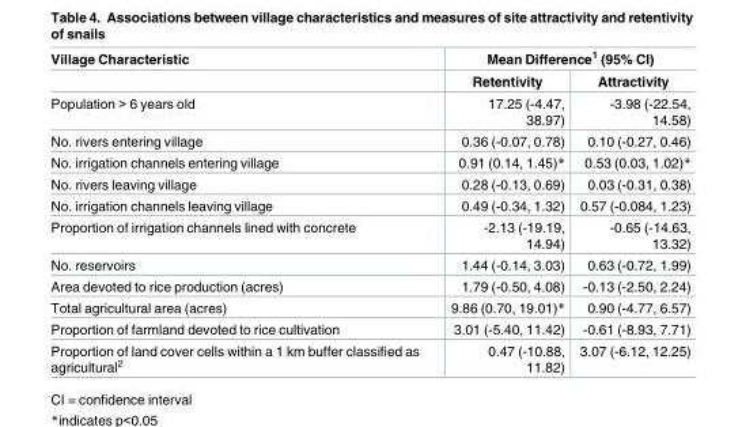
<table><thead><tr><td rowspan="2">Village Characteristic</td><td colspan="2">Mean Difference<sup>1</sup> (95% CI)</td></tr><tr><td>Retentivity</td><td>Attractivity</td></tr></thead><tbody><tr><td>Population &gt; 6 years old</td><td>17.25 (-4.47, 38.97)</td><td>-3.98 (-22.54, 14.58)</td></tr><tr><td>No. rivers entering village</td><td>0.36 (-0.07, 0.78)</td><td>0.10 (-0.27, 0.46)</td></tr><tr><td>No. irrigation channels entering village</td><td>0.91 (0.14, 1.45)*</td><td>0.53 (0.03, 1.02)*</td></tr><tr><td>No. rivers leaving village</td><td>0.28 (-0.13, 0.69)</td><td>0.03 (-0.31, 0.38)</td></tr><tr><td>No. irrigation channels leaving village</td><td>0.49 (-0.34, 1.32)</td><td>0.57 (-0.084, 1.23)</td></tr><tr><td>Proportion of irrigation channels lined with concrete</td><td>-2.13 (-19.19, 14.94)</td><td>-0.65 (-14.63, 13.32)</td></tr><tr><td>No. reservoirs</td><td>1.44 (-0.14, 3.03)</td><td>0.63 (-0.72, 1.99)</td></tr><tr><td>Area devoted to rice production (acres)</td><td>1.79 (-0.50, 4.08)</td><td>-0.13 (-2.50, 2.24)</td></tr><tr><td>Total agricultural area (acres)</td><td>9.86 (0.70, 19.01)*</td><td>0.90 (-4.77, 6.57)</td></tr><tr><td>Proportion of farmland devoted to rice cultivation</td><td>3.01 (-5.40, 11.42)</td><td>-0.61 (-8.93, 7.71)</td></tr><tr><td>Proportion of land cover cells within a 1 km buffer classified as agricultural<sup>2</sup></td><td>0.47 (-10.88, 11.82)</td><td>3.07 (-6.12, 12.25)</td></tr></tbody></table>